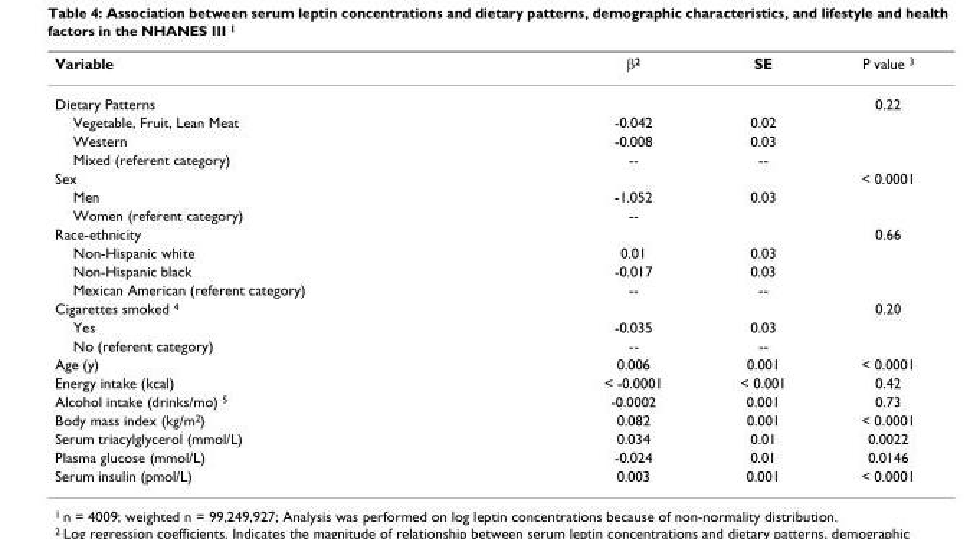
<table><thead><tr><td>Variable</td><td>β<sup>2</sup></td><td>SE</td><td>P value <sup>3</sup></td></tr></thead><tbody><tr><td>Dietary Patterns</td><td></td><td></td><td>0.22</td></tr><tr><td>Vegetable, Fruit, Lean Meat</td><td>-0.042</td><td>0.02</td><td></td></tr><tr><td>Western</td><td>-0.008</td><td>0.03</td><td></td></tr><tr><td>Mixed (referent category)</td><td>--</td><td>--</td><td></td></tr><tr><td>Sex</td><td></td><td></td><td>&lt; 0.0001</td></tr><tr><td>Men</td><td>-1.052</td><td>0.03</td><td></td></tr><tr><td>Women (referent category)</td><td>--</td><td></td><td></td></tr><tr><td>Race-ethnicity</td><td></td><td></td><td>0.66</td></tr><tr><td>Non-Hispanic white</td><td>0.01</td><td>0.03</td><td></td></tr><tr><td>Non-Hispanic black</td><td>-0.017</td><td>0.03</td><td></td></tr><tr><td>Mexican American (referent category)</td><td>--</td><td>--</td><td></td></tr><tr><td>Cigarettes smoked <sup>4</sup></td><td></td><td></td><td>0.20</td></tr><tr><td>Yes</td><td>-0.035</td><td>0.03</td><td></td></tr><tr><td>No (referent category)</td><td>--</td><td>--</td><td></td></tr><tr><td>Age (y)</td><td>0.006</td><td>0.001</td><td>&lt; 0.0001</td></tr><tr><td>Energy intake (kcal)</td><td>&lt; -0.0001</td><td>&lt; 0.001</td><td>0.42</td></tr><tr><td>Alcohol intake (drinks/mo) <sup>5</sup></td><td>-0.0002</td><td>0.001</td><td>0.73</td></tr><tr><td>Body mass index (kg/m<sup>2</sup>)</td><td>0.082</td><td>0.001</td><td>&lt; 0.0001</td></tr><tr><td>Serum triacylglycerol (mmol/L)</td><td>0.034</td><td>0.01</td><td>0.0022</td></tr><tr><td>Plasma glucose (mmol/L)</td><td>-0.024</td><td>0.01</td><td>0.0146</td></tr><tr><td>Serum insulin (pmol/L)</td><td>0.003</td><td>0.001</td><td>&lt; 0.0001</td></tr></tbody></table>